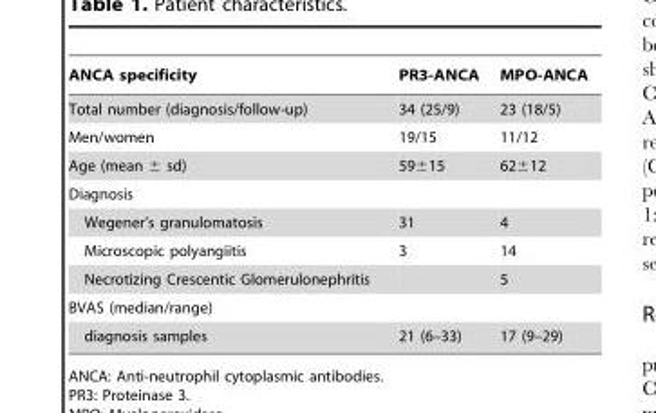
<table><thead><tr><td>ANCA specificity</td><td>PR3-ANCA</td><td>MPO-ANCA</td></tr></thead><tbody><tr><td>Total number (diagnosis/follow-up)</td><td>34 (25/9)</td><td>23 (18/5)</td></tr><tr><td>Men/women</td><td>19/15</td><td>11/12</td></tr><tr><td>Age (mean ± sd)</td><td>59±15</td><td>62±12</td></tr><tr><td colspan="3">Diagnosis</td></tr><tr><td>Wegener’s granulomatosis</td><td>31</td><td>4</td></tr><tr><td>Microscopic polyangiitis</td><td>3</td><td>14</td></tr><tr><td>Necrotizing Crescentic Glomerulonephritis</td><td></td><td>5</td></tr><tr><td colspan="3">BVAS (median/range)</td></tr><tr><td>diagnosis samples</td><td>21 (6–33)</td><td>17 (9–29)</td></tr></tbody></table>